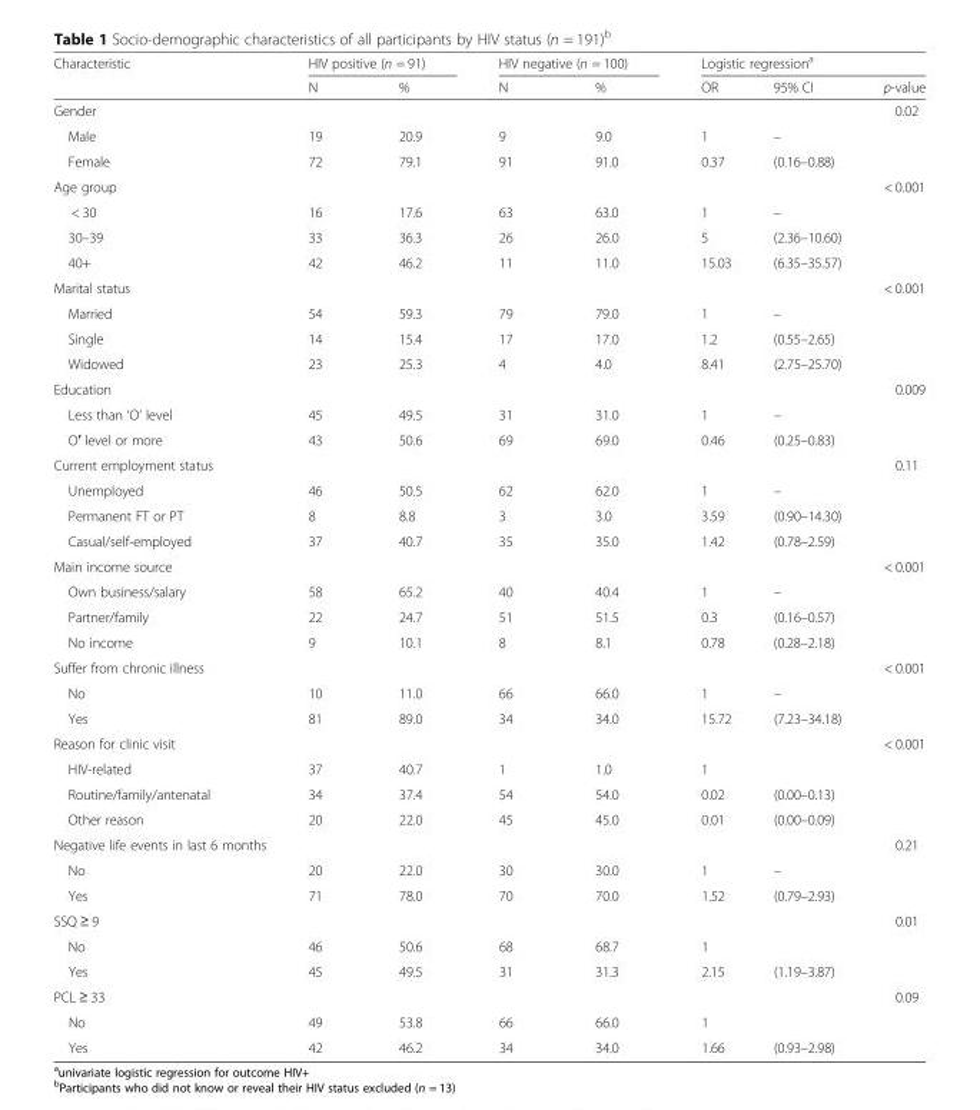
<table><thead><tr><td rowspan="2">Characteristic</td><td colspan="2">HIV positive (n = 91)</td><td colspan="2">HIV negative (n = 100)</td><td colspan="3">Logistic regression<sup>a</sup></td></tr><tr><td>N</td><td>%</td><td>N</td><td>%</td><td>OR</td><td>95% CI</td><td>p-value</td></tr></thead><tbody><tr><td>Gender</td><td></td><td></td><td></td><td></td><td></td><td></td><td>0.02</td></tr><tr><td>Male</td><td>19</td><td>20.9</td><td>9</td><td>9.0</td><td>1</td><td>–</td><td></td></tr><tr><td>Female</td><td>72</td><td>79.1</td><td>91</td><td>91.0</td><td>0.37</td><td>(0.16–0.88)</td><td></td></tr><tr><td>Age group</td><td></td><td></td><td></td><td></td><td></td><td></td><td>&lt; 0.001</td></tr><tr><td>&lt; 30</td><td>16</td><td>17.6</td><td>63</td><td>63.0</td><td>1</td><td>–</td><td></td></tr><tr><td>30–39</td><td>33</td><td>36.3</td><td>26</td><td>26.0</td><td>5</td><td>(2.36–10.60)</td><td></td></tr><tr><td>40+</td><td>42</td><td>46.2</td><td>11</td><td>11.0</td><td>15.03</td><td>(6.35–35.57)</td><td></td></tr><tr><td>Marital status</td><td></td><td></td><td></td><td></td><td></td><td></td><td>&lt; 0.001</td></tr><tr><td>Married</td><td>54</td><td>59.3</td><td>79</td><td>79.0</td><td>1</td><td>–</td><td></td></tr><tr><td>Single</td><td>14</td><td>15.4</td><td>17</td><td>17.0</td><td>1.2</td><td>(0.55–2.65)</td><td></td></tr><tr><td>Widowed</td><td>23</td><td>25.3</td><td>4</td><td>4.0</td><td>8.41</td><td>(2.75–25.70)</td><td></td></tr><tr><td>Education</td><td></td><td></td><td></td><td></td><td></td><td></td><td>0.009</td></tr><tr><td>Less than ‘O’ level</td><td>45</td><td>49.5</td><td>31</td><td>31.0</td><td>1</td><td>–</td><td></td></tr><tr><td>O′ level or more</td><td>43</td><td>50.6</td><td>69</td><td>69.0</td><td>0.46</td><td>(0.25–0.83)</td><td></td></tr><tr><td>Current employment status</td><td></td><td></td><td></td><td></td><td></td><td></td><td>0.11</td></tr><tr><td>Unemployed</td><td>46</td><td>50.5</td><td>62</td><td>62.0</td><td>1</td><td>–</td><td></td></tr><tr><td>Permanent FT or PT</td><td>8</td><td>8.8</td><td>3</td><td>3.0</td><td>3.59</td><td>(0.90–14.30)</td><td></td></tr><tr><td>Casual/self-employed</td><td>37</td><td>40.7</td><td>35</td><td>35.0</td><td>1.42</td><td>(0.78–2.59)</td><td></td></tr><tr><td>Main income source</td><td></td><td></td><td></td><td></td><td></td><td></td><td>&lt; 0.001</td></tr><tr><td>Own business/salary</td><td>58</td><td>65.2</td><td>40</td><td>40.4</td><td>1</td><td>–</td><td></td></tr><tr><td>Partner/family</td><td>22</td><td>24.7</td><td>51</td><td>51.5</td><td>0.3</td><td>(0.16–0.57)</td><td></td></tr><tr><td>No income</td><td>9</td><td>10.1</td><td>8</td><td>8.1</td><td>0.78</td><td>(0.28–2.18)</td><td></td></tr><tr><td>Suffer from chronic illness</td><td></td><td></td><td></td><td></td><td></td><td></td><td>&lt; 0.001</td></tr><tr><td>No</td><td>10</td><td>11.0</td><td>66</td><td>66.0</td><td>1</td><td>–</td><td></td></tr><tr><td>Yes</td><td>81</td><td>89.0</td><td>34</td><td>34.0</td><td>15.72</td><td>(7.23–34.18)</td><td></td></tr><tr><td>Reason for clinic visit</td><td></td><td></td><td></td><td></td><td></td><td></td><td>&lt; 0.001</td></tr><tr><td>HIV-related</td><td>37</td><td>40.7</td><td>1</td><td>1.0</td><td>1</td><td></td><td></td></tr><tr><td>Routine/family/antenatal</td><td>34</td><td>37.4</td><td>54</td><td>54.0</td><td>0.02</td><td>(0.00–0.13)</td><td></td></tr><tr><td>Other reason</td><td>20</td><td>22.0</td><td>45</td><td>45.0</td><td>0.01</td><td>(0.00–0.09)</td><td></td></tr><tr><td>Negative life events in last 6 months</td><td></td><td></td><td></td><td></td><td></td><td></td><td>0.21</td></tr><tr><td>No</td><td>20</td><td>22.0</td><td>30</td><td>30.0</td><td>1</td><td>–</td><td></td></tr><tr><td>Yes</td><td>71</td><td>78.0</td><td>70</td><td>70.0</td><td>1.52</td><td>(0.79–2.93)</td><td></td></tr><tr><td>SSQ ≥ 9</td><td></td><td></td><td></td><td></td><td></td><td></td><td>0.01</td></tr><tr><td>No</td><td>46</td><td>50.6</td><td>68</td><td>68.7</td><td>1</td><td></td><td></td></tr><tr><td>Yes</td><td>45</td><td>49.5</td><td>31</td><td>31.3</td><td>2.15</td><td>(1.19–3.87)</td><td></td></tr><tr><td>PCL ≥ 33</td><td></td><td></td><td></td><td></td><td></td><td></td><td>0.09</td></tr><tr><td>No</td><td>49</td><td>53.8</td><td>66</td><td>66.0</td><td>1</td><td></td><td></td></tr><tr><td>Yes</td><td>42</td><td>46.2</td><td>34</td><td>34.0</td><td>1.66</td><td>(0.93–2.98)</td><td></td></tr></tbody></table>